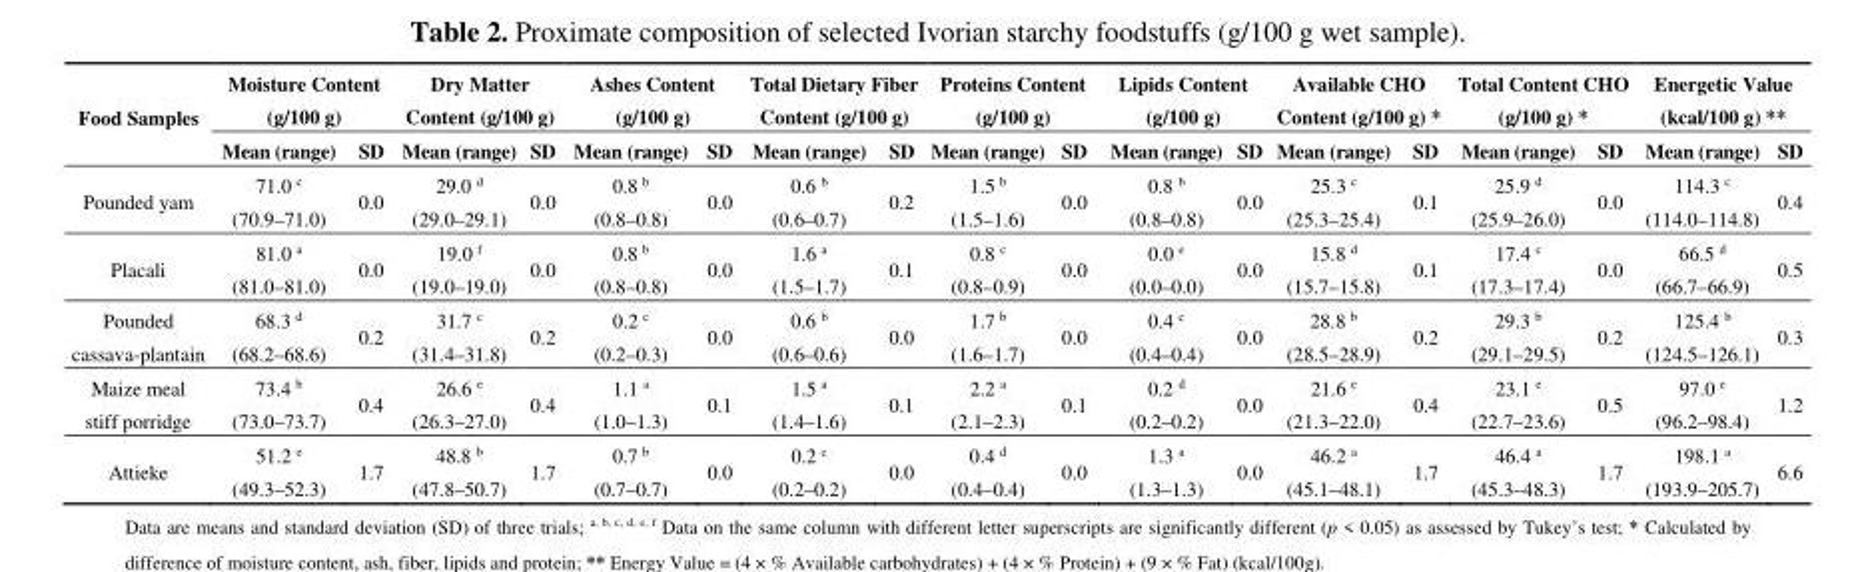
<table><thead><tr><td rowspan="2">Food Samples</td><td colspan="2">Moisture Content (g/100 g)</td><td colspan="2">Dry Matter Content (g/100 g)</td><td colspan="2">Ashes Content (g/100 g)</td><td colspan="2">Total Dietary Fiber Content (g/100 g)</td><td colspan="2">Proteins Content (g/100 g)</td><td colspan="2">Lipids Content (g/100 g)</td><td colspan="2">Available CHO Content (g/100 g) *</td><td colspan="2">Total Content CHO (g/100 g) *</td><td colspan="2">Energetic Value (kcal/100 g) **</td></tr><tr><td>Mean (range)</td><td>SD</td><td>Mean (range)</td><td>SD</td><td>Mean (range)</td><td>SD</td><td>Mean (range)</td><td>SD</td><td>Mean (range)</td><td>SD</td><td>Mean (range)</td><td>SD</td><td>Mean (range)</td><td>SD</td><td>Mean (range)</td><td>SD</td><td>Mean (range)</td><td>SD</td></tr></thead><tbody><tr><td>Pounded yam</td><td>71.0 <sup>c</sup> (70.9–71.0)</td><td>0.0</td><td>29.0 <sup>d</sup> (29.0–29.1)</td><td>0.0</td><td>0.8 <sup>b</sup> (0.8–0.8)</td><td>0.0</td><td>0.6 <sup>b</sup> (0.6–0.7)</td><td>0.2</td><td>1.5 <sup>b</sup> (1.5–1.6)</td><td>0.0</td><td>0.8 <sup>b</sup> (0.8–0.8)</td><td>0.0</td><td>25.3 <sup>c</sup> (25.3–25.4)</td><td>0.1</td><td>25.9 <sup>d</sup> (25.9–26.0)</td><td>0.0</td><td>114.3 <sup>c</sup> (114.0–114.8)</td><td>0.4</td></tr><tr><td>Placali</td><td>81.0 <sup>a</sup> (81.0–81.0)</td><td>0.0</td><td>19.0 <sup>f</sup> (19.0–19.0)</td><td>0.0</td><td>0.8 <sup>b</sup> (0.8–0.8)</td><td>0.0</td><td>1.6 <sup>a</sup> (1.5–1.7)</td><td>0.1</td><td>0.8 <sup>c</sup> (0.8–0.9)</td><td>0.0</td><td>0.0 <sup>e</sup> (0.0–0.0)</td><td>0.0</td><td>15.8 <sup>d</sup> (15.7–15.8)</td><td>0.1</td><td>17.4 <sup>c</sup> (17.3–17.4)</td><td>0.0</td><td>66.5 <sup>d</sup> (66.7–66.9)</td><td>0.5</td></tr><tr><td>Pounded cassava-plantain</td><td>68.3 <sup>d</sup> (68.2–68.6)</td><td>0.2</td><td>31.7 <sup>c</sup> (31.4–31.8)</td><td>0.2</td><td>0.2 <sup>c</sup> (0.2–0.3)</td><td>0.0</td><td>0.6 <sup>b</sup> (0.6–0.6)</td><td>0.0</td><td>1.7 <sup>b</sup> (1.6–1.7)</td><td>0.0</td><td>0.4 <sup>c</sup> (0.4–0.4)</td><td>0.0</td><td>28.8 <sup>b</sup> (28.5–28.9)</td><td>0.2</td><td>29.3 <sup>b</sup> (29.1–29.5)</td><td>0.2</td><td>125.4 <sup>b</sup> (124.5–126.1)</td><td>0.3</td></tr><tr><td>Maize meal stiff porridge</td><td>73.4 <sup>b</sup> (73.0–73.7)</td><td>0.4</td><td>26.6 <sup>e</sup> (26.3–27.0)</td><td>0.4</td><td>1.1 <sup>a</sup> (1.0–1.3)</td><td>0.1</td><td>1.5 <sup>a</sup> (1.4–1.6)</td><td>0.1</td><td>2.2 <sup>a</sup> (2.1–2.3)</td><td>0.1</td><td>0.2 <sup>d</sup> (0.2–0.2)</td><td>0.0</td><td>21.6 <sup>e</sup> (21.3–22.0)</td><td>0.4</td><td>23.1 <sup>e</sup> (22.7–23.6)</td><td>0.5</td><td>97.0 <sup>e</sup> (96.2–98.4)</td><td>1.2</td></tr><tr><td>Attieke</td><td>51.2 <sup>e</sup> (49.3–52.3)</td><td>1.7</td><td>48.8 <sup>b</sup> (47.8–50.7)</td><td>1.7</td><td>0.7 <sup>b</sup> (0.7–0.7)</td><td>0.0</td><td>0.2 <sup>c</sup> (0.2–0.2)</td><td>0.0</td><td>0.4 <sup>d</sup> (0.4–0.4)</td><td>0.0</td><td>1.3 <sup>a</sup> (1.3–1.3)</td><td>0.0</td><td>46.2 <sup>a</sup> (45.1–48.1)</td><td>1.7</td><td>46.4 <sup>a</sup> (45.3–48.3)</td><td>1.7</td><td>198.1 <sup>a</sup> (193.9–205.7)</td><td>6.6</td></tr></tbody></table>